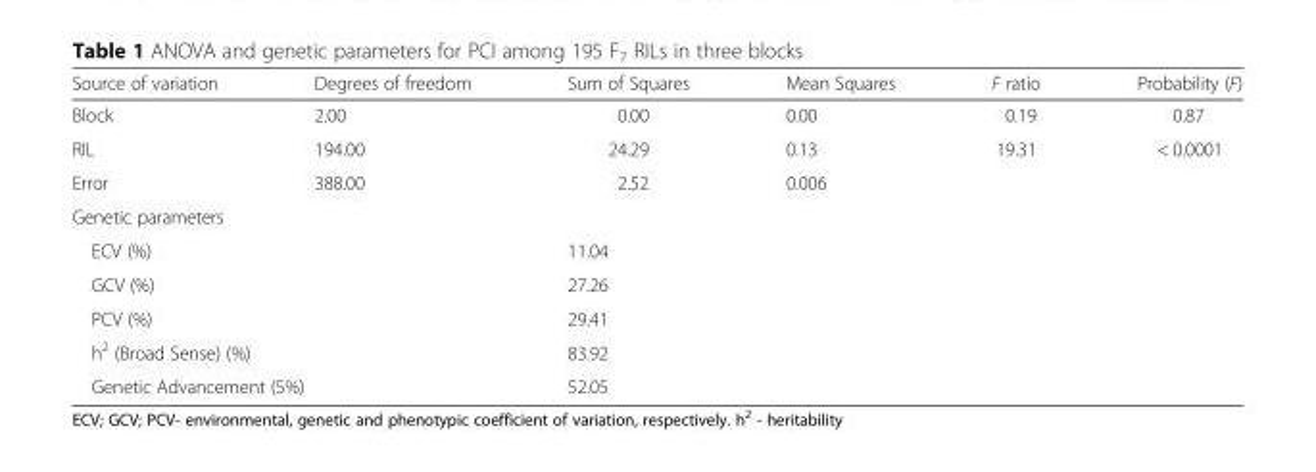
<table><thead><tr><td>Source of variation</td><td>Degrees of freedom</td><td>Sum of Squares</td><td>Mean Squares</td><td>F ratio</td><td>Probability (F)</td></tr></thead><tbody><tr><td>Block</td><td>2.00</td><td>0.00</td><td>0.00</td><td>0.19</td><td>0.87</td></tr><tr><td>RIL</td><td>194.00</td><td>24.29</td><td>0.13</td><td>19.31</td><td>&lt; 0.0001</td></tr><tr><td>Error</td><td>388.00</td><td>2.52</td><td>0.006</td><td></td><td></td></tr><tr><td colspan="6">Genetic parameters</td></tr><tr><td colspan="2">ECV (%)</td><td colspan="4">11.04</td></tr><tr><td colspan="2">GCV (%)</td><td colspan="4">27.26</td></tr><tr><td colspan="2">PCV (%)</td><td colspan="4">29.41</td></tr><tr><td colspan="2">h<sup>2</sup> (Broad Sense) (%)</td><td colspan="4">83.92</td></tr><tr><td colspan="2">Genetic Advancement (5%)</td><td colspan="4">52.05</td></tr></tbody></table>